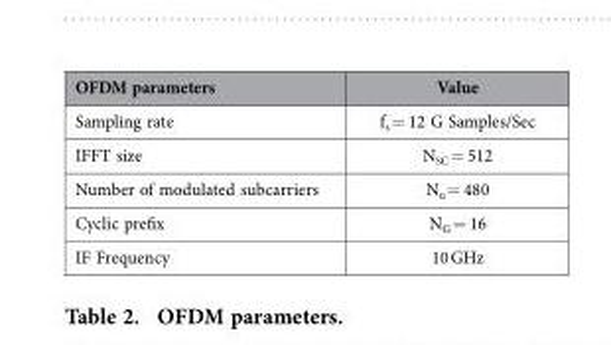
<table><thead><tr><td>OFDM parameters</td><td>Value</td></tr></thead><tbody><tr><td>Sampling rate</td><td>f<sub>s</sub> = 12 G Samples/Sec</td></tr><tr><td>IFFT size</td><td>N<sub>SC</sub> = 512</td></tr><tr><td>Number of modulated subcarriers</td><td>N<sub>u</sub> = 480</td></tr><tr><td>Cyclic prefix</td><td>N<sub>G</sub> = 16</td></tr><tr><td>IF Frequency</td><td>10 GHz</td></tr></tbody></table>